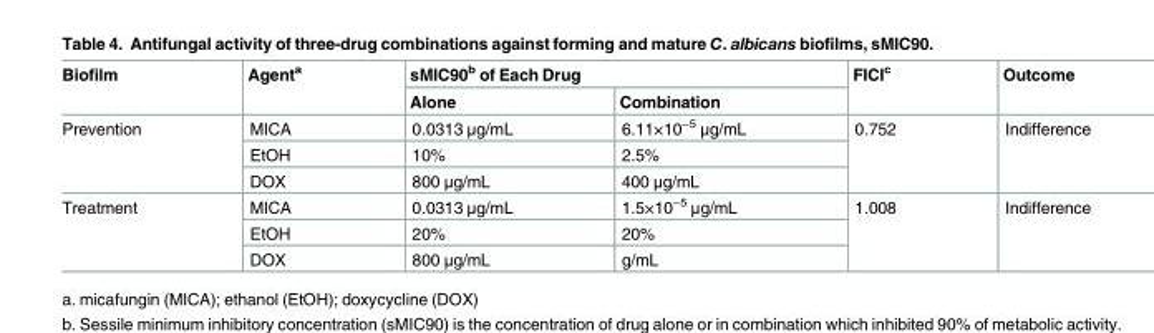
<table><thead><tr><td rowspan="2">Biofilm</td><td rowspan="2">Agent<sup>a</sup></td><td colspan="2">sMIC90<sup>b</sup> of Each Drug</td><td rowspan="2">FICI<sup>c</sup></td><td rowspan="2">Outcome</td></tr><tr><td>Alone</td><td>Combination</td></tr></thead><tbody><tr><td rowspan="3">Prevention</td><td>MICA</td><td>0.0313 μg/mL</td><td>6.11×10<sup>−5</sup> μg/mL</td><td rowspan="3">0.752</td><td rowspan="3">Indifference</td></tr><tr><td>EtOH</td><td>10%</td><td>2.5%</td></tr><tr><td>DOX</td><td>800 μg/mL</td><td>400 μg/mL</td></tr><tr><td rowspan="3">Treatment</td><td>MICA</td><td>0.0313 μg/mL</td><td>1.5×10<sup>−5</sup> μg/mL</td><td rowspan="3">1.008</td><td rowspan="3">Indifference</td></tr><tr><td>EtOH</td><td>20%</td><td>20%</td></tr><tr><td>DOX</td><td>800 μg/mL</td><td>g/mL</td></tr></tbody></table>